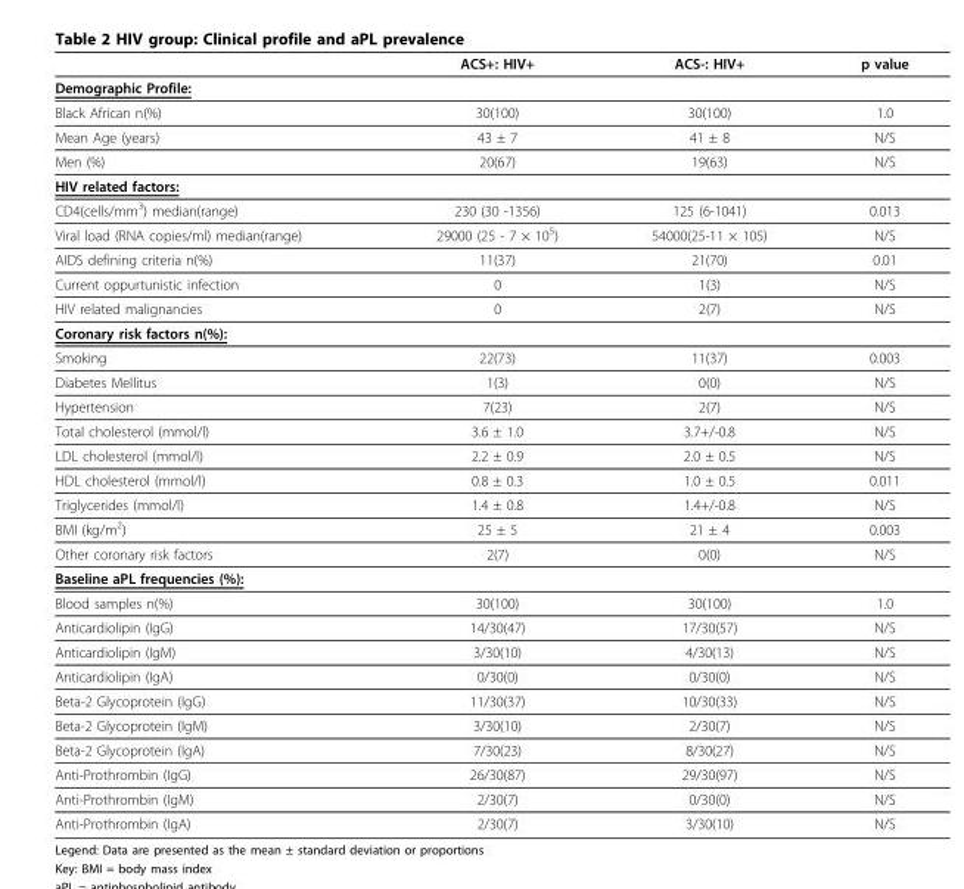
<table><thead><tr><td></td><td>ACS+: HIV+</td><td>ACS-: HIV+</td><td>p value</td></tr></thead><tbody><tr><td colspan="4">Demographic Profile:</td></tr><tr><td>Black African n(%)</td><td>30(100)</td><td>30(100)</td><td>1.0</td></tr><tr><td>Mean Age (years)</td><td>43 ± 7</td><td>41 ± 8</td><td>N/S</td></tr><tr><td>Men (%)</td><td>20(67)</td><td>19(63)</td><td>N/S</td></tr><tr><td colspan="4">HIV related factors:</td></tr><tr><td>CD4(cells/mm3) median(range)</td><td>230 (30 -1356)</td><td>125 (6-1041)</td><td>0.013</td></tr><tr><td>Viral load (RNA copies/ml) median(range)</td><td>29000 (25 - 7 × 105)</td><td>54000(25-11 × 105)</td><td>N/S</td></tr><tr><td>AIDS defining criteria n(%)</td><td>11(37)</td><td>21(70)</td><td>0.01</td></tr><tr><td>Current oppurtunistic infection</td><td>0</td><td>1(3)</td><td>N/S</td></tr><tr><td>HIV related malignancies</td><td>0</td><td>2(7)</td><td>N/S</td></tr><tr><td colspan="4">Coronary risk factors n(%):</td></tr><tr><td>Smoking</td><td>22(73)</td><td>11(37)</td><td>0.003</td></tr><tr><td>Diabetes Mellitus</td><td>1(3)</td><td>0(0)</td><td>N/S</td></tr><tr><td>Hypertension</td><td>7(23)</td><td>2(7)</td><td>N/S</td></tr><tr><td>Total cholesterol (mmol/l)</td><td>3.6 ± 1.0</td><td>3.7+/-0.8</td><td>N/S</td></tr><tr><td>LDL cholesterol (mmol/l)</td><td>2.2 ± 0.9</td><td>2.0 ± 0.5</td><td>N/S</td></tr><tr><td>HDL cholesterol (mmol/l)</td><td>0.8 ± 0.3</td><td>1.0 ± 0.5</td><td>0.011</td></tr><tr><td>Triglycerides (mmol/l)</td><td>1.4 ± 0.8</td><td>1.4+/-0.8</td><td>N/S</td></tr><tr><td>BMI (kg/m2)</td><td>25 ± 5</td><td>21 ± 4</td><td>0.003</td></tr><tr><td>Other coronary risk factors</td><td>2(7)</td><td>0(0)</td><td>N/S</td></tr><tr><td colspan="4">Baseline aPL frequencies (%):</td></tr><tr><td>Blood samples n(%)</td><td>30(100)</td><td>30(100)</td><td>1.0</td></tr><tr><td>Anticardiolipin (IgG)</td><td>14/30(47)</td><td>17/30(57)</td><td>N/S</td></tr><tr><td>Anticardiolipin (IgM)</td><td>3/30(10)</td><td>4/30(13)</td><td>N/S</td></tr><tr><td>Anticardiolipin (IgA)</td><td>0/30(0)</td><td>0/30(0)</td><td>N/S</td></tr><tr><td>Beta-2 Glycoprotein (IgG)</td><td>11/30(37)</td><td>10/30(33)</td><td>N/S</td></tr><tr><td>Beta-2 Glycoprotein (IgM)</td><td>3/30(10)</td><td>2/30(7)</td><td>N/S</td></tr><tr><td>Beta-2 Glycoprotein (IgA)</td><td>7/30(23)</td><td>8/30(27)</td><td>N/S</td></tr><tr><td>Anti-Prothrombin (IgG)</td><td>26/30(87)</td><td>29/30(97)</td><td>N/S</td></tr><tr><td>Anti-Prothrombin (IgM)</td><td>2/30(7)</td><td>0/30(0)</td><td>N/S</td></tr><tr><td>Anti-Prothrombin (IgA)</td><td>2/30(7)</td><td>3/30(10)</td><td>N/S</td></tr></tbody></table>